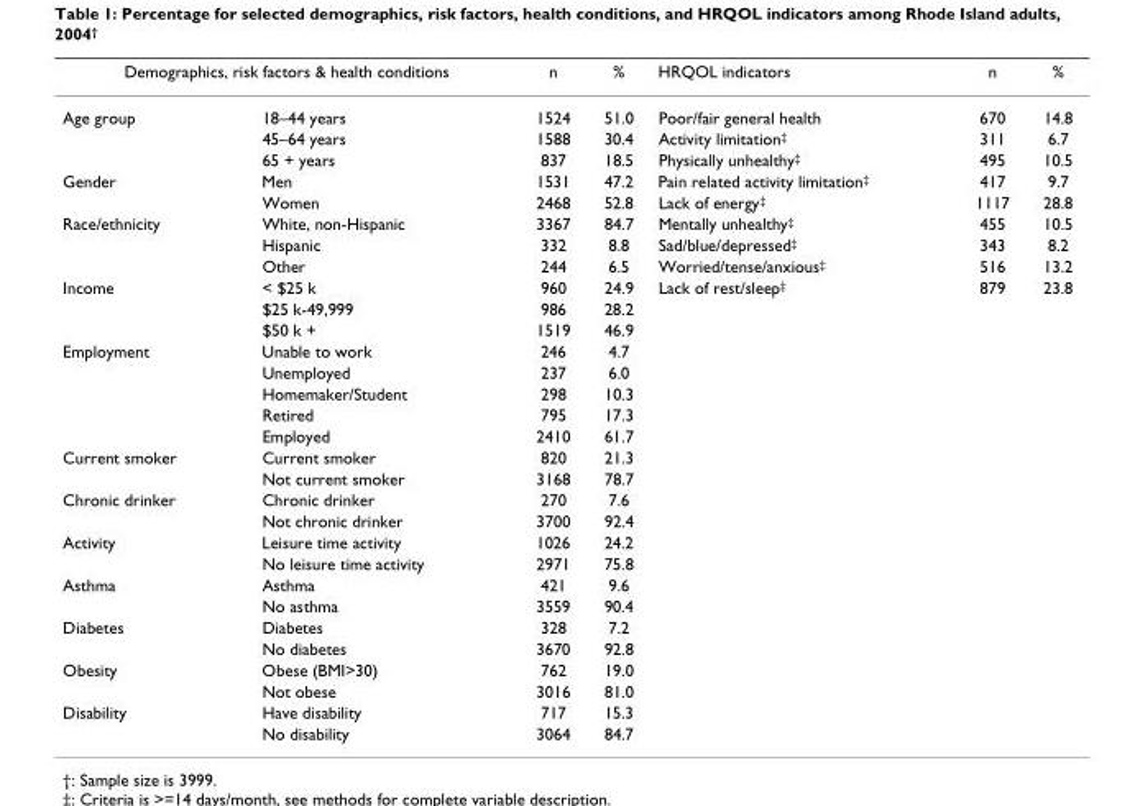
<table><thead><tr><td colspan="2">Demographics, risk factors &amp; health conditions</td><td rowspan="2">n 1524</td><td rowspan="2">% 51.0</td><td rowspan="2">HRQOL indicators Poor/fair general health</td><td rowspan="2">n 670</td><td rowspan="2">% 14.8</td></tr><tr><td>Age group</td><td>18–44 years</td></tr></thead><tbody><tr><td></td><td>45–64 years</td><td>1588</td><td>30.4</td><td>Activity limitation<sup>‡</sup></td><td>311</td><td>6.7</td></tr><tr><td></td><td>65 + years</td><td>837</td><td>18.5</td><td>Physically unhealthy<sup>‡</sup></td><td>495</td><td>10.5</td></tr><tr><td rowspan="2">Gender</td><td>Men</td><td>1531</td><td>47.2</td><td>Pain related activity limitation<sup>‡</sup></td><td>417</td><td>9.7</td></tr><tr><td>Women</td><td>2468</td><td>52.8</td><td>Lack of energy<sup>‡</sup></td><td>1117</td><td>28.8</td></tr><tr><td rowspan="3">Race/ethnicity</td><td>White, non-Hispanic</td><td>3367</td><td>84.7</td><td>Mentally unhealthy<sup>‡</sup></td><td>455</td><td>10.5</td></tr><tr><td>Hispanic</td><td>332</td><td>8.8</td><td>Sad/blue/depressed<sup>‡</sup></td><td>343</td><td>8.2</td></tr><tr><td>Other</td><td>244</td><td>6.5</td><td>Worried/tense/anxious<sup>‡</sup></td><td>516</td><td>13.2</td></tr><tr><td rowspan="3">Income</td><td>&lt; $25 k</td><td>960</td><td>24.9</td><td>Lack of rest/sleep<sup>‡</sup></td><td>879</td><td>23.8</td></tr><tr><td>$25 k-49,999</td><td>986</td><td>28.2</td><td></td><td></td><td></td></tr><tr><td>$50 k +</td><td>1519</td><td>46.9</td><td></td><td></td><td></td></tr><tr><td rowspan="5">Employment</td><td>Unable to work</td><td>246</td><td>4.7</td><td></td><td></td><td></td></tr><tr><td>Unemployed</td><td>237</td><td>6.0</td><td></td><td></td><td></td></tr><tr><td>Homemaker/Student</td><td>298</td><td>10.3</td><td></td><td></td><td></td></tr><tr><td>Retired</td><td>795</td><td>17.3</td><td></td><td></td><td></td></tr><tr><td>Employed</td><td>2410</td><td>61.7</td><td></td><td></td><td></td></tr><tr><td rowspan="2">Current smoker</td><td>Current smoker</td><td>820</td><td>21.3</td><td></td><td></td><td></td></tr><tr><td>Not current smoker</td><td>3168</td><td>78.7</td><td></td><td></td><td></td></tr><tr><td rowspan="2">Chronic drinker</td><td>Chronic drinker</td><td>270</td><td>7.6</td><td></td><td></td><td></td></tr><tr><td>Not chronic drinker</td><td>3700</td><td>92.4</td><td></td><td></td><td></td></tr><tr><td rowspan="2">Activity</td><td>Leisure time activity</td><td>1026</td><td>24.2</td><td></td><td></td><td></td></tr><tr><td>No leisure time activity</td><td>2971</td><td>75.8</td><td></td><td></td><td></td></tr><tr><td rowspan="2">Asthma</td><td>Asthma</td><td>421</td><td>9.6</td><td></td><td></td><td></td></tr><tr><td>No asthma</td><td>3559</td><td>90.4</td><td></td><td></td><td></td></tr><tr><td rowspan="2">Diabetes</td><td>Diabetes</td><td>328</td><td>7.2</td><td></td><td></td><td></td></tr><tr><td>No diabetes</td><td>3670</td><td>92.8</td><td></td><td></td><td></td></tr><tr><td rowspan="2">Obesity</td><td>Obese (BMI&gt;30)</td><td>762</td><td>19.0</td><td></td><td></td><td></td></tr><tr><td>Not obese</td><td>3016</td><td>81.0</td><td></td><td></td><td></td></tr><tr><td rowspan="2">Disability</td><td>Have disability</td><td>717</td><td>15.3</td><td></td><td></td><td></td></tr><tr><td>No disability</td><td>3064</td><td>84.7</td><td></td><td></td><td></td></tr></tbody></table>